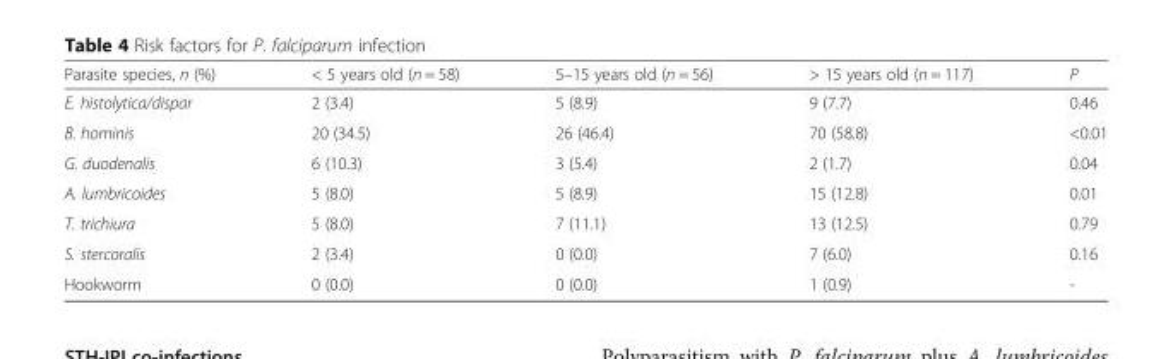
<table><thead><tr><td>Parasite species, n (%)</td><td>&lt; 5 years old (n = 58)</td><td>5–15 years old (n = 56)</td><td>&gt; 15 years old (n = 117)</td><td>P</td></tr></thead><tbody><tr><td>E. histolytica/dispar</td><td>2 (3.4)</td><td>5 (8.9)</td><td>9 (7.7)</td><td>0.46</td></tr><tr><td>B. hominis</td><td>20 (34.5)</td><td>26 (46.4)</td><td>70 (58.8)</td><td>&lt;0.01</td></tr><tr><td>G. duodenalis</td><td>6 (10.3)</td><td>3 (5.4)</td><td>2 (1.7)</td><td>0.04</td></tr><tr><td>A. lumbricoides</td><td>5 (8.0)</td><td>5 (8.9)</td><td>15 (12.8)</td><td>0.01</td></tr><tr><td>T. trichiura</td><td>5 (8.0)</td><td>7 (11.1)</td><td>13 (12.5)</td><td>0.79</td></tr><tr><td>S. stercoralis</td><td>2 (3.4)</td><td>0 (0.0)</td><td>7 (6.0)</td><td>0.16</td></tr><tr><td>Hookworm</td><td>0 (0.0)</td><td>0 (0.0)</td><td>1 (0.9)</td><td>-</td></tr></tbody></table>